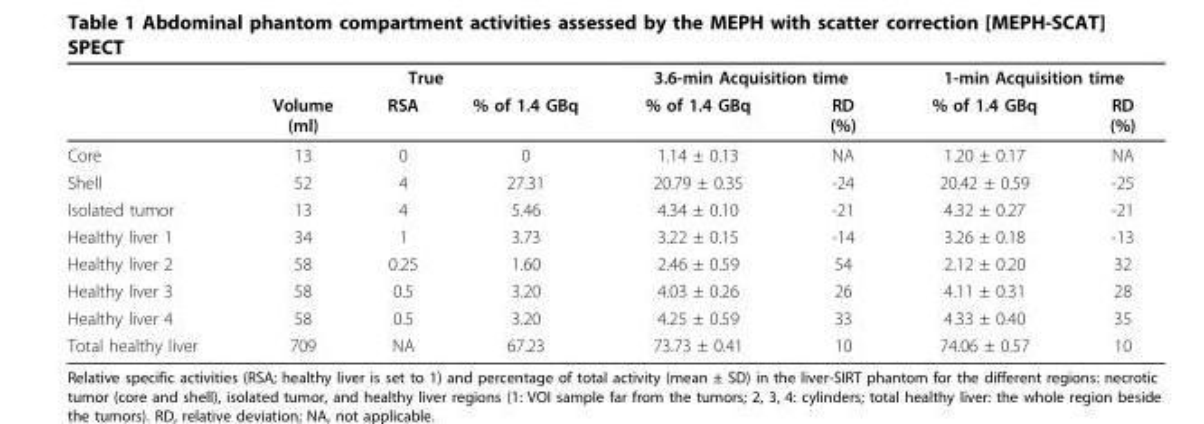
<table><thead><tr><td rowspan="2"></td><td colspan="3">True</td><td colspan="2">3.6-min Acquisition time</td><td colspan="2">1-min Acquisition time</td></tr><tr><td>Volume (ml)</td><td>RSA</td><td>% of 1.4 GBq</td><td>% of 1.4 GBq</td><td>RD (%)</td><td>% of 1.4 GBq</td><td>RD (%)</td></tr></thead><tbody><tr><td>Core</td><td>13</td><td>0</td><td>0</td><td>1.14 ± 0.13</td><td>NA</td><td>1.20 ± 0.17</td><td>NA</td></tr><tr><td>Shell</td><td>52</td><td>4</td><td>27.31</td><td>20.79 ± 0.35</td><td>-24</td><td>20.42 ± 0.59</td><td>-25</td></tr><tr><td>Isolated tumor</td><td>13</td><td>4</td><td>5.46</td><td>4.34 ± 0.10</td><td>-21</td><td>4.32 ± 0.27</td><td>-21</td></tr><tr><td>Healthy liver 1</td><td>34</td><td>1</td><td>3.73</td><td>3.22 ± 0.15</td><td>-14</td><td>3.26 ± 0.18</td><td>-13</td></tr><tr><td>Healthy liver 2</td><td>58</td><td>0.25</td><td>1.60</td><td>2.46 ± 0.59</td><td>54</td><td>2.12 ± 0.20</td><td>32</td></tr><tr><td>Healthy liver 3</td><td>58</td><td>0.5</td><td>3.20</td><td>4.03 ± 0.26</td><td>26</td><td>4.11 ± 0.31</td><td>28</td></tr><tr><td>Healthy liver 4</td><td>58</td><td>0.5</td><td>3.20</td><td>4.25 ± 0.59</td><td>33</td><td>4.33 ± 0.40</td><td>35</td></tr><tr><td>Total healthy liver</td><td>709</td><td>NA</td><td>67.23</td><td>73.73 ± 0.41</td><td>10</td><td>74.06 ± 0.57</td><td>10</td></tr></tbody></table>